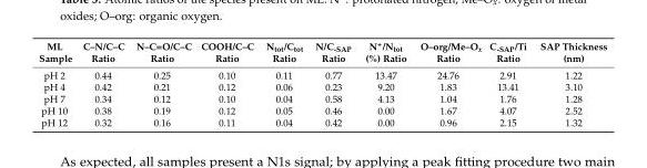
<table><thead><tr><td>ML Sample</td><td>C–N/C–C Ratio</td><td>N–C=O/C–C Ratio</td><td>COOH/C–C Ratio</td><td>N<sub>tot</sub>/C<sub>tot</sub> Ratio</td><td>N/C<sub>-SAP</sub> Ratio</td><td>N<sup>+</sup>/N<sub>tot</sub> (%) Ratio</td><td>O–org/Me–O<sub>x</sub> Ratio</td><td>C<sub>-SAP</sub>/Ti Ratio</td><td>SAP Thickness (nm)</td></tr></thead><tbody><tr><td>pH 2</td><td>0.44</td><td>0.25</td><td>0.10</td><td>0.11</td><td>0.77</td><td>13.47</td><td>24.76</td><td>2.91</td><td>1.22</td></tr><tr><td>pH 4</td><td>0.42</td><td>0.21</td><td>0.12</td><td>0.06</td><td>0.23</td><td>9.20</td><td>1.83</td><td>13.41</td><td>3.10</td></tr><tr><td>pH 7</td><td>0.34</td><td>0.12</td><td>0.10</td><td>0.04</td><td>0.58</td><td>4.13</td><td>1.04</td><td>1.76</td><td>1.28</td></tr><tr><td>pH 10</td><td>0.38</td><td>0.19</td><td>0.12</td><td>0.05</td><td>0.46</td><td>0.00</td><td>1.67</td><td>4.07</td><td>2.52</td></tr><tr><td>pH 12</td><td>0.32</td><td>0.16</td><td>0.11</td><td>0.04</td><td>0.42</td><td>0.00</td><td>0.96</td><td>2.15</td><td>1.32</td></tr></tbody></table>